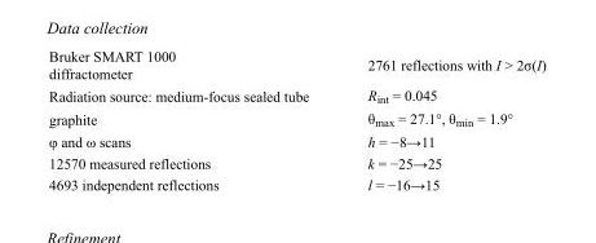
<table><tbody><tr><td>Bruker SMART 1000 diffractometer</td><td>2761 reflections with I &gt; 2σ(I)</td></tr><tr><td>Radiation source: medium-focus sealed tube</td><td>R<sub>int</sub> = 0.045</td></tr><tr><td>graphite</td><td>θ<sub>max</sub> = 27.1°, θ<sub>min</sub> = 1.9°</td></tr><tr><td>φ and ω scans</td><td>h = −8→11</td></tr><tr><td>12570 measured reflections</td><td>k = −25→25</td></tr><tr><td>4693 independent reflections</td><td>l = −16→15</td></tr></tbody></table>